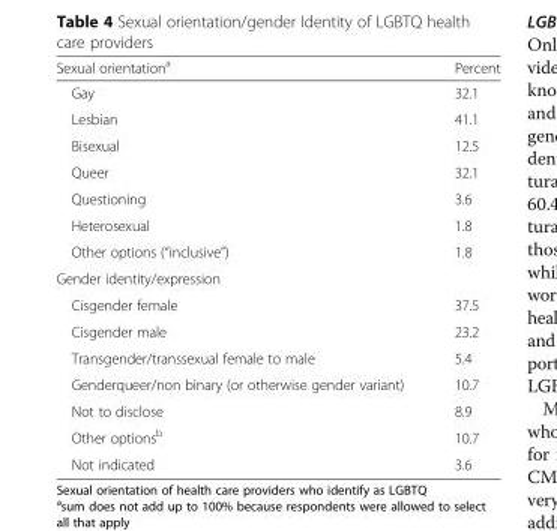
<table><thead><tr><td>Sexual orientation<sup>a</sup></td><td>Percent</td></tr></thead><tbody><tr><td>Gay</td><td>32.1</td></tr><tr><td>Lesbian</td><td>41.1</td></tr><tr><td>Bisexual</td><td>12.5</td></tr><tr><td>Queer</td><td>32.1</td></tr><tr><td>Questioning</td><td>3.6</td></tr><tr><td>Heterosexual</td><td>1.8</td></tr><tr><td>Other options (“inclusive”)</td><td>1.8</td></tr><tr><td colspan="2">Gender identity/expression</td></tr><tr><td>Cisgender female</td><td>37.5</td></tr><tr><td>Cisgender male</td><td>23.2</td></tr><tr><td>Transgender/transsexual female to male</td><td>5.4</td></tr><tr><td>Genderqueer/non binary (or otherwise gender variant)</td><td>10.7</td></tr><tr><td>Not to disclose</td><td>8.9</td></tr><tr><td>Other options<sup>b</sup></td><td>10.7</td></tr><tr><td>Not indicated</td><td>3.6</td></tr></tbody></table>